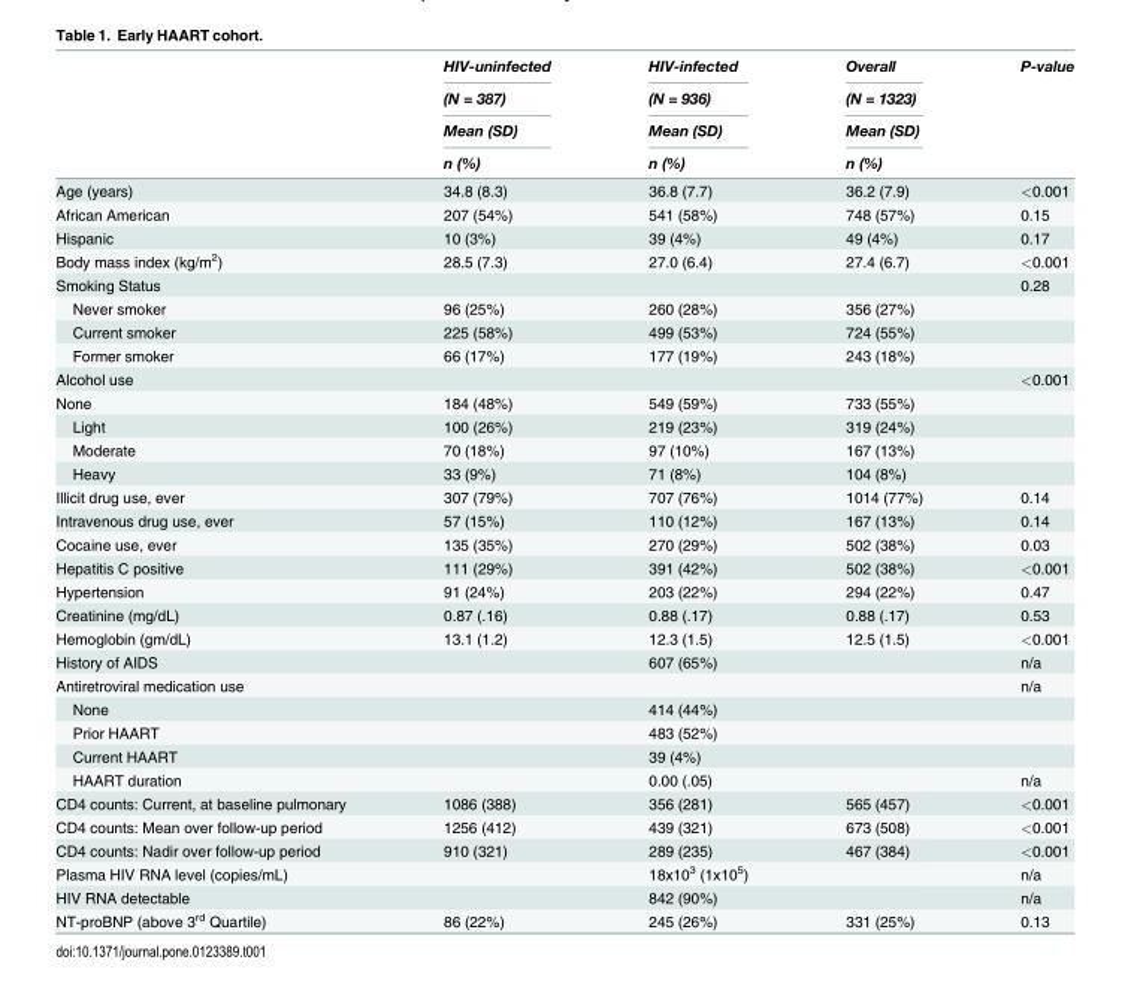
<table><thead><tr><td rowspan="4"></td><td rowspan="4">HIV-uninfected (N = 387) Mean (SD) n (%)</td><td rowspan="4">HIV-infected (N = 936) Mean (SD) n (%)</td><td rowspan="4">Overall (N = 1323) Mean (SD) n (%)</td><td rowspan="4">P-value</td></tr><tr></tr><tr></tr><tr></tr></thead><tbody><tr><td>Age (years)</td><td>34.8 (8.3)</td><td>36.8 (7.7)</td><td>36.2 (7.9)</td><td>&lt;0.001</td></tr><tr><td>African American</td><td>207 (54%)</td><td>541 (58%)</td><td>748 (57%)</td><td>0.15</td></tr><tr><td>Hispanic</td><td>10 (3%)</td><td>39 (4%)</td><td>49 (4%)</td><td>0.17</td></tr><tr><td>Body mass index (kg/m<sup>2</sup>)</td><td>28.5 (7.3)</td><td>27.0 (6.4)</td><td>27.4 (6.7)</td><td>&lt;0.001</td></tr><tr><td>Smoking Status</td><td></td><td></td><td></td><td>0.28</td></tr><tr><td>Never smoker</td><td>96 (25%)</td><td>260 (28%)</td><td>356 (27%)</td><td></td></tr><tr><td>Current smoker</td><td>225 (58%)</td><td>499 (53%)</td><td>724 (55%)</td><td></td></tr><tr><td>Former smoker</td><td>66 (17%)</td><td>177 (19%)</td><td>243 (18%)</td><td></td></tr><tr><td>Alcohol use</td><td></td><td></td><td></td><td>&lt;0.001</td></tr><tr><td>None</td><td>184 (48%)</td><td>549 (59%)</td><td>733 (55%)</td><td></td></tr><tr><td>Light</td><td>100 (26%)</td><td>219 (23%)</td><td>319 (24%)</td><td></td></tr><tr><td>Moderate</td><td>70 (18%)</td><td>97 (10%)</td><td>167 (13%)</td><td></td></tr><tr><td>Heavy</td><td>33 (9%)</td><td>71 (8%)</td><td>104 (8%)</td><td></td></tr><tr><td>Illicit drug use, ever</td><td>307 (79%)</td><td>707 (76%)</td><td>1014 (77%)</td><td>0.14</td></tr><tr><td>Intravenous drug use, ever</td><td>57 (15%)</td><td>110 (12%)</td><td>167 (13%)</td><td>0.14</td></tr><tr><td>Cocaine use, ever</td><td>135 (35%)</td><td>270 (29%)</td><td>502 (38%)</td><td>0.03</td></tr><tr><td>Hepatitis C positive</td><td>111 (29%)</td><td>391 (42%)</td><td>502 (38%)</td><td>&lt;0.001</td></tr><tr><td>Hypertension</td><td>91 (24%)</td><td>203 (22%)</td><td>294 (22%)</td><td>0.47</td></tr><tr><td>Creatinine (mg/dL)</td><td>0.87 (.16)</td><td>0.88 (.17)</td><td>0.88 (.17)</td><td>0.53</td></tr><tr><td>Hemoglobin (gm/dL)</td><td>13.1 (1.2)</td><td>12.3 (1.5)</td><td>12.5 (1.5)</td><td>&lt;0.001</td></tr><tr><td>History of AIDS</td><td></td><td>607 (65%)</td><td></td><td>n/a</td></tr><tr><td>Antiretroviral medication use</td><td></td><td></td><td></td><td>n/a</td></tr><tr><td>None</td><td></td><td>414 (44%)</td><td></td><td></td></tr><tr><td>Prior HAART</td><td></td><td>483 (52%)</td><td></td><td></td></tr><tr><td>Current HAART</td><td></td><td>39 (4%)</td><td></td><td></td></tr><tr><td>HAART duration</td><td></td><td>0.00 (.05)</td><td></td><td>n/a</td></tr><tr><td>CD4 counts: Current, at baseline pulmonary</td><td>1086 (388)</td><td>356 (281)</td><td>565 (457)</td><td>&lt;0.001</td></tr><tr><td>CD4 counts: Mean over follow-up period</td><td>1256 (412)</td><td>439 (321)</td><td>673 (508)</td><td>&lt;0.001</td></tr><tr><td>CD4 counts: Nadir over follow-up period</td><td>910 (321)</td><td>289 (235)</td><td>467 (384)</td><td>&lt;0.001</td></tr><tr><td>Plasma HIV RNA level (copies/mL)</td><td></td><td>18x10<sup>3</sup> (1x10<sup>5</sup>)</td><td></td><td>n/a</td></tr><tr><td>HIV RNA detectable</td><td></td><td>842 (90%)</td><td></td><td>n/a</td></tr><tr><td>NT-proBNP (above 3<sup>rd</sup> Quartile)</td><td>86 (22%)</td><td>245 (26%)</td><td>331 (25%)</td><td>0.13</td></tr></tbody></table>